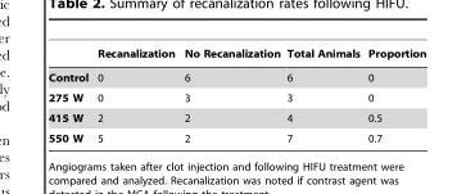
<table><thead><tr><td></td><td>Recanalization</td><td>No Recanalization</td><td>Total Animals</td><td>Proportion</td></tr></thead><tbody><tr><td>Control</td><td>0</td><td>6</td><td>6</td><td>0</td></tr><tr><td>275 W</td><td>0</td><td>3</td><td>3</td><td>0</td></tr><tr><td>415 W</td><td>2</td><td>2</td><td>4</td><td>0.5</td></tr><tr><td>550 W</td><td>5</td><td>2</td><td>7</td><td>0.7</td></tr></tbody></table>